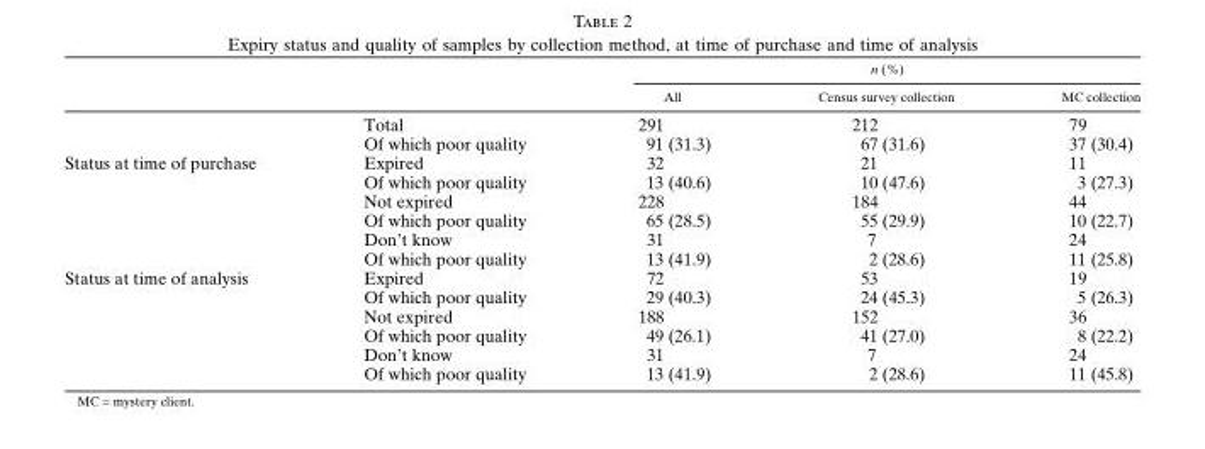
<table><thead><tr><td rowspan="2"></td><td rowspan="2"></td><td colspan="3">n (%)</td></tr><tr><td>All</td><td>Census survey collection</td><td>MC collection</td></tr></thead><tbody><tr><td></td><td>Total</td><td>291</td><td>212</td><td>79</td></tr><tr><td></td><td>Of which poor quality</td><td>91 (31.3)</td><td>67 (31.6)</td><td>37 (30.4)</td></tr><tr><td rowspan="6">Status at time of purchase</td><td>Expired</td><td>32</td><td>21</td><td>11</td></tr><tr><td>Of which poor quality</td><td>13 (40.6)</td><td>10 (47.6)</td><td>3 (27.3)</td></tr><tr><td>Not expired</td><td>228</td><td>184</td><td>44</td></tr><tr><td>Of which poor quality</td><td>65 (28.5)</td><td>55 (29.9)</td><td>10 (22.7)</td></tr><tr><td>Don’t know</td><td>31</td><td>7</td><td>24</td></tr><tr><td>Of which poor quality</td><td>13 (41.9)</td><td>2 (28.6)</td><td>11 (25.8)</td></tr><tr><td rowspan="6">Status at time of analysis</td><td>Expired</td><td>72</td><td>53</td><td>19</td></tr><tr><td>Of which poor quality</td><td>29 (40.3)</td><td>24 (45.3)</td><td>5 (26.3)</td></tr><tr><td>Not expired</td><td>188</td><td>152</td><td>36</td></tr><tr><td>Of which poor quality</td><td>49 (26.1)</td><td>41 (27.0)</td><td>8 (22.2)</td></tr><tr><td>Don’t know</td><td>31</td><td>7</td><td>24</td></tr><tr><td>Of which poor quality</td><td>13 (41.9)</td><td>2 (28.6)</td><td>11 (45.8)</td></tr></tbody></table>